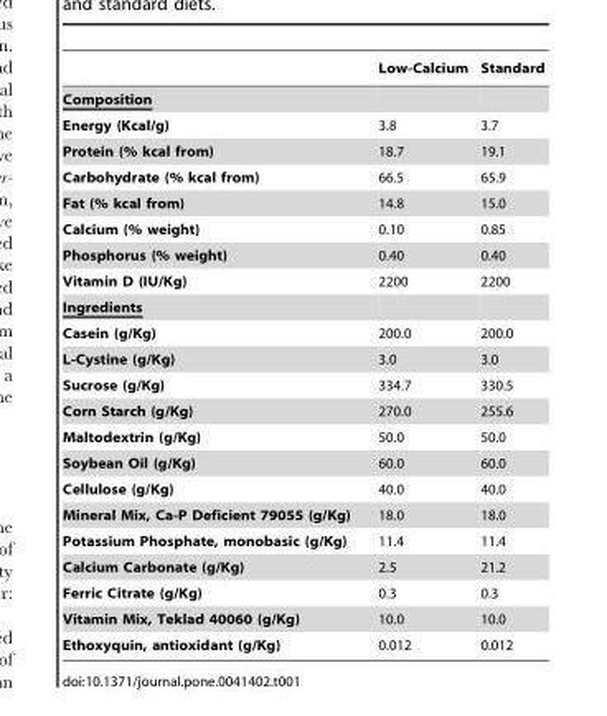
<table><thead><tr><td></td><td>Low-Calcium</td><td>Standard</td></tr></thead><tbody><tr><td colspan="3">Composition</td></tr><tr><td>Energy (Kcal/g)</td><td>3.8</td><td>3.7</td></tr><tr><td>Protein (% kcal from)</td><td>18.7</td><td>19.1</td></tr><tr><td>Carbohydrate (% kcal from)</td><td>66.5</td><td>65.9</td></tr><tr><td>Fat (% kcal from)</td><td>14.8</td><td>15.0</td></tr><tr><td>Calcium (% weight)</td><td>0.10</td><td>0.85</td></tr><tr><td>Phosphorus (% weight)</td><td>0.40</td><td>0.40</td></tr><tr><td>Vitamin D (IU/Kg)</td><td>2200</td><td>2200</td></tr><tr><td colspan="3">Ingredients</td></tr><tr><td>Casein (g/Kg)</td><td>200.0</td><td>200.0</td></tr><tr><td>L-Cystine (g/Kg)</td><td>3.0</td><td>3.0</td></tr><tr><td>Sucrose (g/Kg)</td><td>334.7</td><td>330.5</td></tr><tr><td>Corn Starch (g/Kg)</td><td>270.0</td><td>255.6</td></tr><tr><td>Maltodextrin (g/Kg)</td><td>50.0</td><td>50.0</td></tr><tr><td>Soybean Oil (g/Kg)</td><td>60.0</td><td>60.0</td></tr><tr><td>Cellulose (g/Kg)</td><td>40.0</td><td>40.0</td></tr><tr><td>Mineral Mix, Ca-P Deficient 79055 (g/Kg)</td><td>18.0</td><td>18.0</td></tr><tr><td>Potassium Phosphate, monobasic (g/Kg)</td><td>11.4</td><td>11.4</td></tr><tr><td>Calcium Carbonate (g/Kg)</td><td>2.5</td><td>21.2</td></tr><tr><td>Ferric Citrate (g/Kg)</td><td>0.3</td><td>0.3</td></tr><tr><td>Vitamin Mix, Teklad 40060 (g/Kg)</td><td>10.0</td><td>10.0</td></tr><tr><td>Ethoxyquin, antioxidant (g/Kg)</td><td>0.012</td><td>0.012</td></tr></tbody></table>